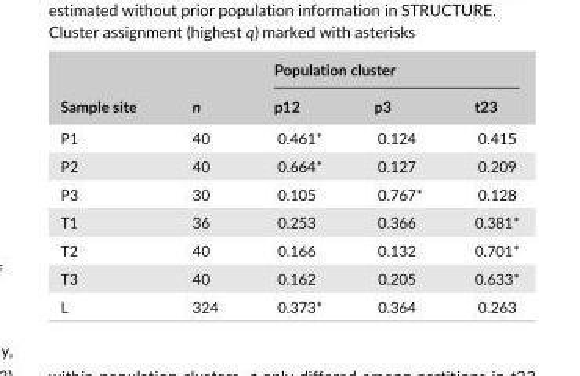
<table><thead><tr><td rowspan="2">Sample site</td><td rowspan="2">n</td><td colspan="3">Population cluster</td></tr><tr><td>p12</td><td>p3</td><td>t23</td></tr></thead><tbody><tr><td>P1</td><td>40</td><td>0.461*</td><td>0.124</td><td>0.415</td></tr><tr><td>P2</td><td>40</td><td>0.664*</td><td>0.127</td><td>0.209</td></tr><tr><td>P3</td><td>30</td><td>0.105</td><td>0.767*</td><td>0.128</td></tr><tr><td>T1</td><td>36</td><td>0.253</td><td>0.366</td><td>0.381*</td></tr><tr><td>T2</td><td>40</td><td>0.166</td><td>0.132</td><td>0.701*</td></tr><tr><td>T3</td><td>40</td><td>0.162</td><td>0.205</td><td>0.633*</td></tr><tr><td>L</td><td>324</td><td>0.373*</td><td>0.364</td><td>0.263</td></tr></tbody></table>